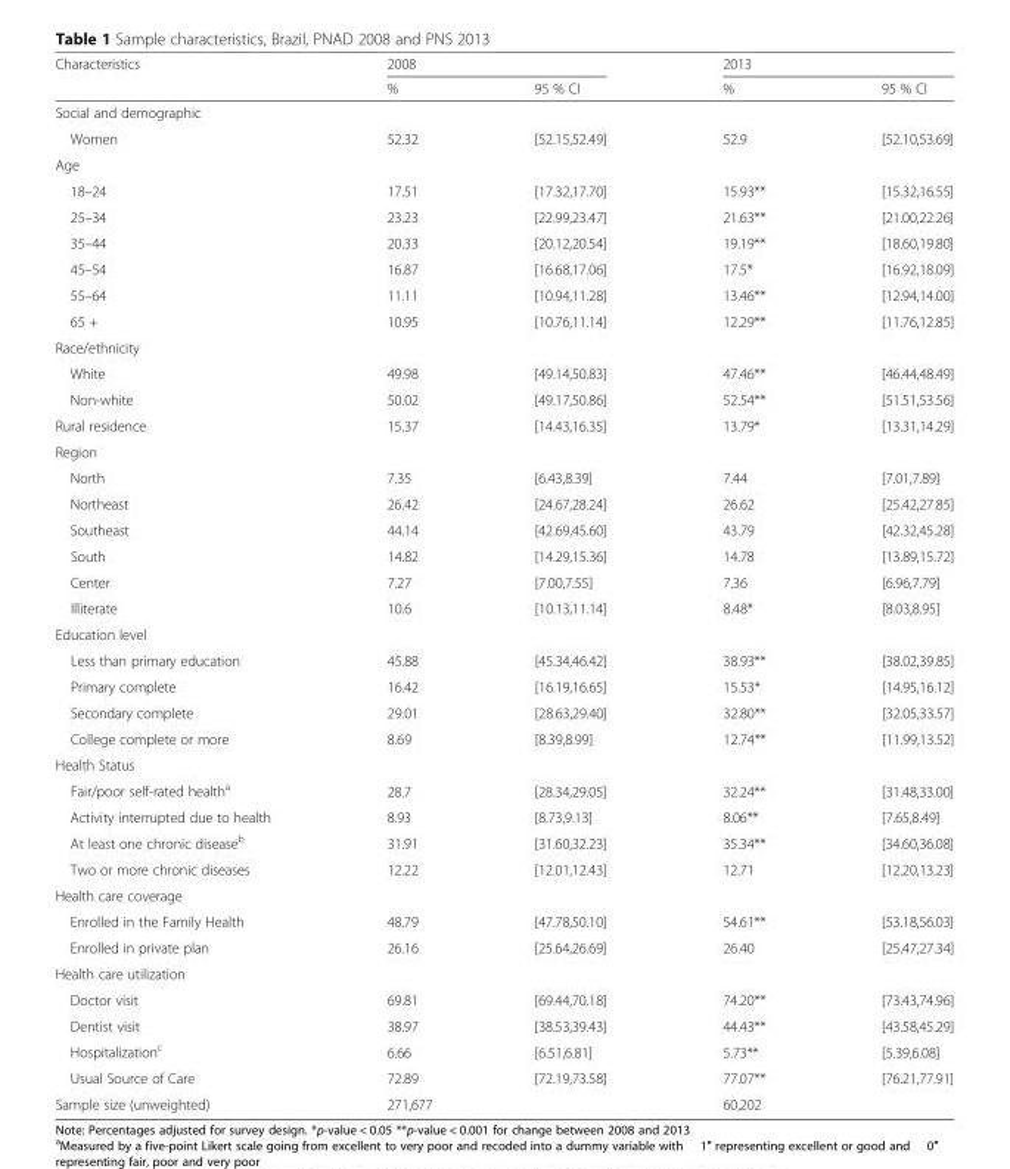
<table><thead><tr><td rowspan="2">Characteristics</td><td colspan="2">2008</td><td colspan="2">2013</td></tr><tr><td>%</td><td>95 % CI</td><td>%</td><td>95 % CI</td></tr></thead><tbody><tr><td colspan="5">Social and demographic</td></tr><tr><td>Women</td><td>52.32</td><td>[52.15,52.49]</td><td>52.9</td><td>[52.10,53.69]</td></tr><tr><td colspan="5">Age</td></tr><tr><td>18–24</td><td>17.51</td><td>[17.32,17.70]</td><td>15.93**</td><td>[15.32,16.55]</td></tr><tr><td>25–34</td><td>23.23</td><td>[22.99,23.47]</td><td>21.63**</td><td>[21.00,22.26]</td></tr><tr><td>35–44</td><td>20.33</td><td>[20.12,20.54]</td><td>19.19**</td><td>[18.60,19.80]</td></tr><tr><td>45–54</td><td>16.87</td><td>[16.68,17.06]</td><td>17.5*</td><td>[16.92,18.09]</td></tr><tr><td>55–64</td><td>11.11</td><td>[10.94,11.28]</td><td>13.46**</td><td>[12.94,14.00]</td></tr><tr><td>65 +</td><td>10.95</td><td>[10.76,11.14]</td><td>12.29**</td><td>[11.76,12.85]</td></tr><tr><td colspan="5">Race/ethnicity</td></tr><tr><td>White</td><td>49.98</td><td>[49.14,50.83]</td><td>47.46**</td><td>[46.44,48.49]</td></tr><tr><td>Non-white</td><td>50.02</td><td>[49.17,50.86]</td><td>52.54**</td><td>[51.51,53.56]</td></tr><tr><td>Rural residence</td><td>15.37</td><td>[14.43,16.35]</td><td>13.79*</td><td>[13.31,14.29]</td></tr><tr><td colspan="5">Region</td></tr><tr><td>North</td><td>7.35</td><td>[6.43,8.39]</td><td>7.44</td><td>[7.01,7.89]</td></tr><tr><td>Northeast</td><td>26.42</td><td>[24.67,28.24]</td><td>26.62</td><td>[25.42,27.85]</td></tr><tr><td>Southeast</td><td>44.14</td><td>[42.69,45.60]</td><td>43.79</td><td>[42.32,45.28]</td></tr><tr><td>South</td><td>14.82</td><td>[14.29,15.36]</td><td>14.78</td><td>[13.89,15.72]</td></tr><tr><td>Center</td><td>7.27</td><td>[7.00,7.55]</td><td>7.36</td><td>[6.96,7.79]</td></tr><tr><td>Illiterate</td><td>10.6</td><td>[10.13,11.14]</td><td>8.48*</td><td>[8.03,8.95]</td></tr><tr><td colspan="5">Education level</td></tr><tr><td>Less than primary education</td><td>45.88</td><td>[45.34,46.42]</td><td>38.93**</td><td>[38.02,39.85]</td></tr><tr><td>Primary complete</td><td>16.42</td><td>[16.19,16.65]</td><td>15.53*</td><td>[14.95,16.12]</td></tr><tr><td>Secondary complete</td><td>29.01</td><td>[28.63,29.40]</td><td>32.80**</td><td>[32.05,33.57]</td></tr><tr><td>College complete or more</td><td>8.69</td><td>[8.39,8.99]</td><td>12.74**</td><td>[11.99,13.52]</td></tr><tr><td colspan="5">Health Status</td></tr><tr><td>Fair/poor self-rated health<sup>a</sup></td><td>28.7</td><td>[28.34,29.05]</td><td>32.24**</td><td>[31.48,33.00]</td></tr><tr><td>Activity interrupted due to health</td><td>8.93</td><td>[8.73,9.13]</td><td>8.06**</td><td>[7.65,8.49]</td></tr><tr><td>At least one chronic disease<sup>b</sup></td><td>31.91</td><td>[31.60,32.23]</td><td>35.34**</td><td>[34.60,36.08]</td></tr><tr><td>Two or more chronic diseases</td><td>12.22</td><td>[12.01,12.43]</td><td>12.71</td><td>[12.20,13.23]</td></tr><tr><td colspan="5">Health care coverage</td></tr><tr><td>Enrolled in the Family Health</td><td>48.79</td><td>[47.78,50.10]</td><td>54.61**</td><td>[53.18,56.03]</td></tr><tr><td>Enrolled in private plan</td><td>26.16</td><td>[25.64,26.69]</td><td>26.40</td><td>[25.47,27.34]</td></tr><tr><td colspan="5">Health care utilization</td></tr><tr><td>Doctor visit</td><td>69.81</td><td>[69.44,70.18]</td><td>74.20**</td><td>[73.43,74.96]</td></tr><tr><td>Dentist visit</td><td>38.97</td><td>[38.53,39.43]</td><td>44.43**</td><td>[43.58,45.29]</td></tr><tr><td>Hospitalization<sup>c</sup></td><td>6.66</td><td>[6.51,6.81]</td><td>5.73**</td><td>[5.39,6.08]</td></tr><tr><td>Usual Source of Care</td><td>72.89</td><td>[72.19,73.58]</td><td>77.07**</td><td>[76.21,77.91]</td></tr><tr><td>Sample size (unweighted)</td><td colspan="2">271,677</td><td colspan="2">60,202</td></tr></tbody></table>